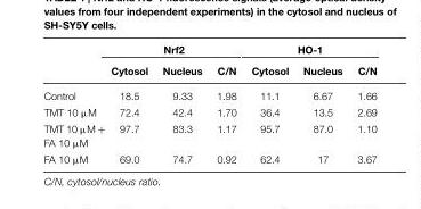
<table><thead><tr><td rowspan="2"></td><td colspan="3">Nrf2</td><td colspan="3">HO-1</td></tr><tr><td>Cytosol</td><td>Nucleus</td><td>C/N</td><td>Cytosol</td><td>Nucleus</td><td>C/N</td></tr></thead><tbody><tr><td>Control</td><td>18.5</td><td>9.33</td><td>1.98</td><td>11.1</td><td>6.67</td><td>1.66</td></tr><tr><td>TMT 10 μM</td><td>72.4</td><td>42.4</td><td>1.70</td><td>36.4</td><td>13.5</td><td>2.69</td></tr><tr><td>TMT 10 μM + FA 10 μM</td><td>97.7</td><td>83.3</td><td>1.17</td><td>95.7</td><td>87.0</td><td>1.10</td></tr><tr><td>FA 10 μM</td><td>69.0</td><td>74.7</td><td>0.92</td><td>62.4</td><td>17</td><td>3.67</td></tr></tbody></table>